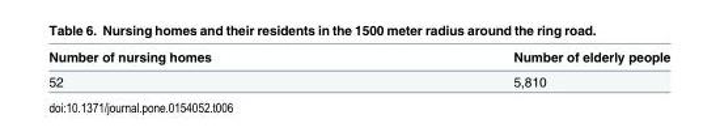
<table><thead><tr><td>Number of nursing homes</td><td>Number of elderly people</td></tr></thead><tbody><tr><td>52</td><td>5,810</td></tr></tbody></table>